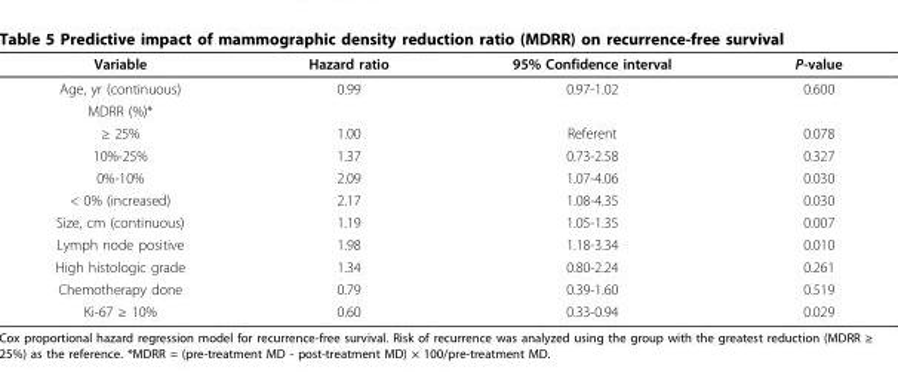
<table><thead><tr><td>Variable</td><td>Hazard ratio</td><td>95% Confidence interval</td><td>P-value</td></tr></thead><tbody><tr><td>Age, yr (continuous)</td><td>0.99</td><td>0.97-1.02</td><td>0.600</td></tr><tr><td colspan="4">MDRR (%)*</td></tr><tr><td>≥ 25%</td><td>1.00</td><td>Referent</td><td>0.078</td></tr><tr><td>10%-25%</td><td>1.37</td><td>0.73-2.58</td><td>0.327</td></tr><tr><td>0%-10%</td><td>2.09</td><td>1.07-4.06</td><td>0.030</td></tr><tr><td>&lt; 0% (increased)</td><td>2.17</td><td>1.08-4.35</td><td>0.030</td></tr><tr><td>Size, cm (continuous)</td><td>1.19</td><td>1.05-1.35</td><td>0.007</td></tr><tr><td>Lymph node positive</td><td>1.98</td><td>1.18-3.34</td><td>0.010</td></tr><tr><td>High histologic grade</td><td>1.34</td><td>0.80-2.24</td><td>0.261</td></tr><tr><td>Chemotherapy done</td><td>0.79</td><td>0.39-1.60</td><td>0.519</td></tr><tr><td>Ki-67 ≥ 10%</td><td>0.60</td><td>0.33-0.94</td><td>0.029</td></tr></tbody></table>